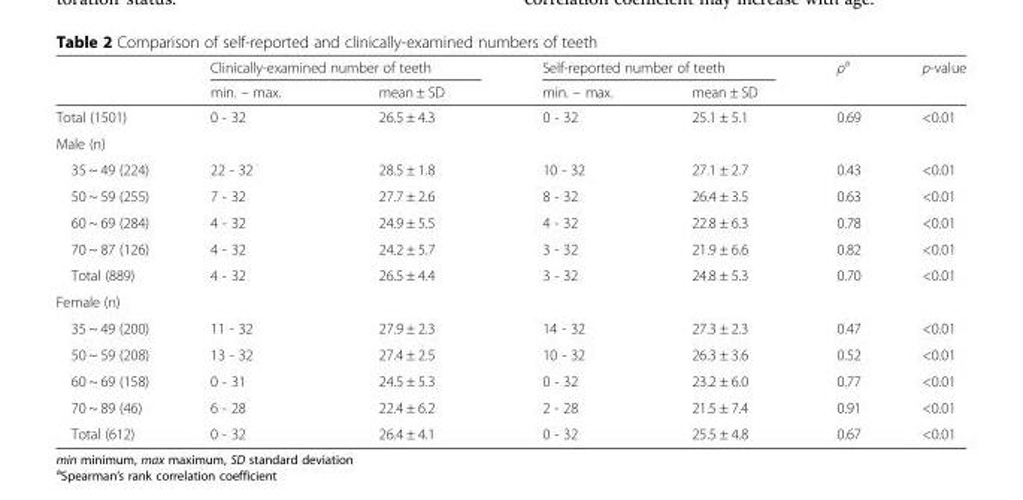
<table><thead><tr><td rowspan="2"></td><td colspan="2">Clinically-examined number of teeth</td><td colspan="2">Self-reported number of teeth</td><td rowspan="2">ρ<sup>a</sup></td><td rowspan="2">p-value</td></tr><tr><td>min. – max.</td><td>mean ± SD</td><td>min. – max.</td><td>mean ± SD</td></tr></thead><tbody><tr><td>Total (1501)</td><td>0 - 32</td><td>26.5 ± 4.3</td><td>0 - 32</td><td>25.1 ± 5.1</td><td>0.69</td><td>&lt;0.01</td></tr><tr><td colspan="7">Male (n)</td></tr><tr><td>35 ~ 49 (224)</td><td>22 - 32</td><td>28.5 ± 1.8</td><td>10 - 32</td><td>27.1 ± 2.7</td><td>0.43</td><td>&lt;0.01</td></tr><tr><td>50 ~ 59 (255)</td><td>7 - 32</td><td>27.7 ± 2.6</td><td>8 - 32</td><td>26.4 ± 3.5</td><td>0.63</td><td>&lt;0.01</td></tr><tr><td>60 ~ 69 (284)</td><td>4 - 32</td><td>24.9 ± 5.5</td><td>4 - 32</td><td>22.8 ± 6.3</td><td>0.78</td><td>&lt;0.01</td></tr><tr><td>70 ~ 87 (126)</td><td>4 - 32</td><td>24.2 ± 5.7</td><td>3 - 32</td><td>21.9 ± 6.6</td><td>0.82</td><td>&lt;0.01</td></tr><tr><td>Total (889)</td><td>4 - 32</td><td>26.5 ± 4.4</td><td>3 - 32</td><td>24.8 ± 5.3</td><td>0.70</td><td>&lt;0.01</td></tr><tr><td colspan="7">Female (n)</td></tr><tr><td>35 ~ 49 (200)</td><td>11 - 32</td><td>27.9 ± 2.3</td><td>14 - 32</td><td>27.3 ± 2.3</td><td>0.47</td><td>&lt;0.01</td></tr><tr><td>50 ~ 59 (208)</td><td>13 - 32</td><td>27.4 ± 2.5</td><td>10 - 32</td><td>26.3 ± 3.6</td><td>0.52</td><td>&lt;0.01</td></tr><tr><td>60 ~ 69 (158)</td><td>0 - 31</td><td>24.5 ± 5.3</td><td>0 - 32</td><td>23.2 ± 6.0</td><td>0.77</td><td>&lt;0.01</td></tr><tr><td>70 ~ 89 (46)</td><td>6 - 28</td><td>22.4 ± 6.2</td><td>2 - 28</td><td>21.5 ± 7.4</td><td>0.91</td><td>&lt;0.01</td></tr><tr><td>Total (612)</td><td>0 - 32</td><td>26.4 ± 4.1</td><td>0 - 32</td><td>25.5 ± 4.8</td><td>0.67</td><td>&lt;0.01</td></tr></tbody></table>